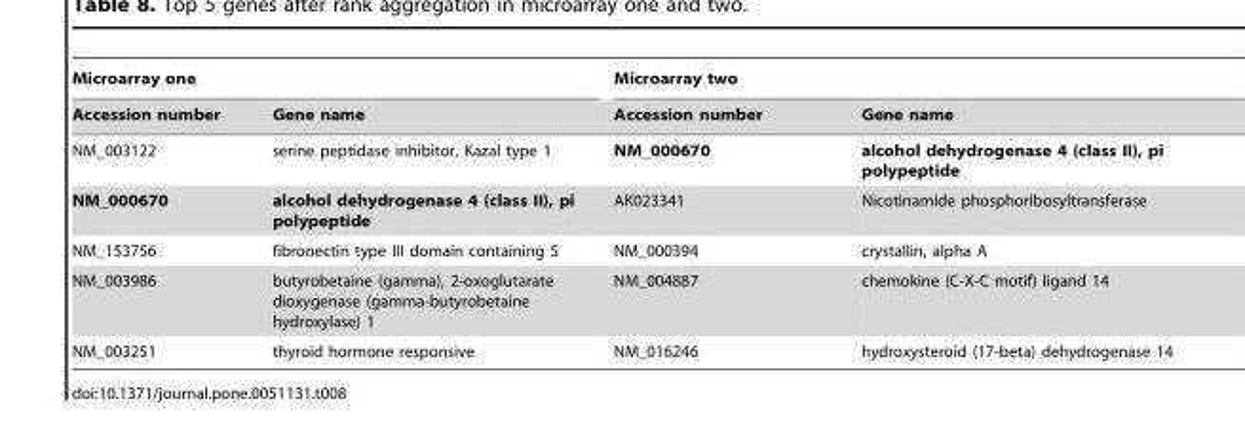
<table><thead><tr><td colspan="2">Microarray one</td><td colspan="2">Microarray two</td></tr><tr><td>Accession number</td><td>Gene name</td><td>Accession number</td><td>Gene name</td></tr></thead><tbody><tr><td>NM_003122</td><td>serine peptidase inhibitor, Kazal type 1</td><td>NM_000670</td><td>alcohol dehydrogenase 4 (class II), pi polypeptide</td></tr><tr><td>NM_000670</td><td>alcohol dehydrogenase 4 (class II), pi polypeptide</td><td>AK023341</td><td>Nicotinamide phosphoribosyltransferase</td></tr><tr><td>NM_153756</td><td>fibronectin type III domain containing 5</td><td>NM_000394</td><td>crystallin, alpha A</td></tr><tr><td>NM_003986</td><td>butyrobetaine (gamma), 2-oxoglutarate dioxygenase (gamma-butyrobetaine hydroxylase) 1</td><td>NM_004887</td><td>chemokine (C-X-C motif) ligand 14</td></tr><tr><td>NM_003251</td><td>thyroid hormone responsive</td><td>NM_016246</td><td>hydroxysteroid (17-beta) dehydrogenase 14</td></tr></tbody></table>